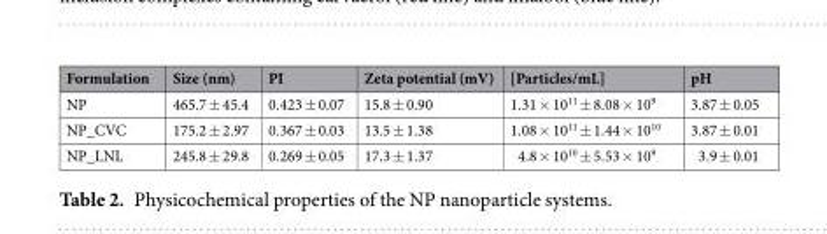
<table><thead><tr><td>Formulation</td><td>Size (nm)</td><td>PI</td><td>Zeta potential (mV)</td><td>[Particles/mL]</td><td>pH</td></tr></thead><tbody><tr><td>NP</td><td>465.7 ± 45.4</td><td>0.423 ± 0.07</td><td>15.8 ± 0.90</td><td>1.31 × 10<sup>11</sup> ± 8.08 × 10<sup>9</sup></td><td>3.87 ± 0.05</td></tr><tr><td>NP_CVC</td><td>175.2 ± 2.97</td><td>0.367 ± 0.03</td><td>13.5 ± 1.38</td><td>1.08 × 10<sup>11</sup> ± 1.44 × 10<sup>10</sup></td><td>3.87 ± 0.01</td></tr><tr><td>NP_LNL</td><td>245.8 ± 29.8</td><td>0.269 ± 0.05</td><td>17.3 ± 1.37</td><td>4.8 × 10<sup>10</sup> ± 5.53 × 10<sup>9</sup></td><td>3.9 ± 0.01</td></tr></tbody></table>